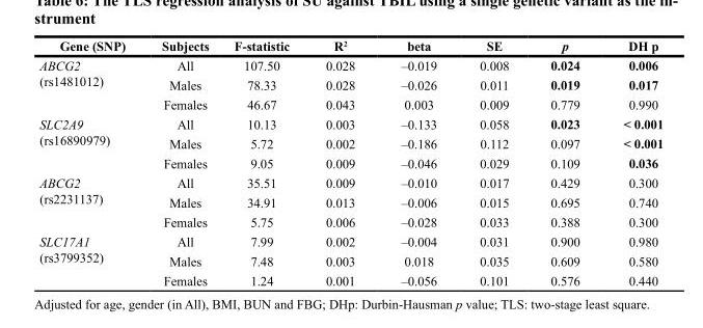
<table><thead><tr><td>Gene (SNP)</td><td>Subjects</td><td>F-statistic</td><td>R<sup>2</sup></td><td>beta</td><td>SE</td><td>p</td><td>DH p</td></tr></thead><tbody><tr><td rowspan="3">ABCG2 (rs1481012)</td><td>All</td><td>107.50</td><td>0.028</td><td>–0.019</td><td>0.008</td><td>0.024</td><td>0.006</td></tr><tr><td>Males</td><td>78.33</td><td>0.028</td><td>–0.026</td><td>0.011</td><td>0.019</td><td>0.017</td></tr><tr><td>Females</td><td>46.67</td><td>0.043</td><td>0.003</td><td>0.009</td><td>0.779</td><td>0.990</td></tr><tr><td rowspan="3">SLC2A9 (rs16890979)</td><td>All</td><td>10.13</td><td>0.003</td><td>–0.133</td><td>0.058</td><td>0.023</td><td>&lt; 0.001</td></tr><tr><td>Males</td><td>5.72</td><td>0.002</td><td>–0.186</td><td>0.112</td><td>0.097</td><td>&lt; 0.001</td></tr><tr><td>Females</td><td>9.05</td><td>0.009</td><td>–0.046</td><td>0.029</td><td>0.109</td><td>0.036</td></tr><tr><td rowspan="3">ABCG2 (rs2231137)</td><td>All</td><td>35.51</td><td>0.009</td><td>–0.010</td><td>0.017</td><td>0.429</td><td>0.300</td></tr><tr><td>Males</td><td>34.91</td><td>0.013</td><td>–0.006</td><td>0.015</td><td>0.695</td><td>0.740</td></tr><tr><td>Females</td><td>5.75</td><td>0.006</td><td>–0.028</td><td>0.033</td><td>0.388</td><td>0.300</td></tr><tr><td rowspan="3">SLC17A1 (rs3799352)</td><td>All</td><td>7.99</td><td>0.002</td><td>–0.004</td><td>0.031</td><td>0.900</td><td>0.980</td></tr><tr><td>Males</td><td>7.48</td><td>0.003</td><td>0.018</td><td>0.035</td><td>0.609</td><td>0.580</td></tr><tr><td>Females</td><td>1.24</td><td>0.001</td><td>–0.056</td><td>0.101</td><td>0.576</td><td>0.440</td></tr></tbody></table>